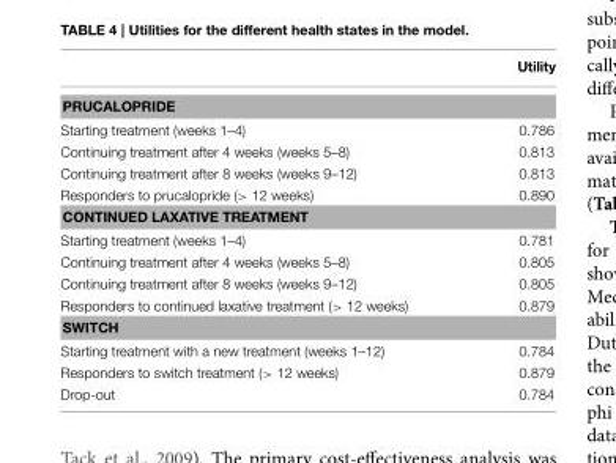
<table><thead><tr><td></td><td>Utility</td></tr></thead><tbody><tr><td colspan="2">PRUCALOPRIDE</td></tr><tr><td>Starting treatment (weeks 1–4)</td><td>0.786</td></tr><tr><td>Continuing treatment after 4 weeks (weeks 5–8)</td><td>0.813</td></tr><tr><td>Continuing treatment after 8 weeks (weeks 9–12)</td><td>0.813</td></tr><tr><td>Responders to prucalopride (&gt; 12 weeks)</td><td>0.890</td></tr><tr><td colspan="2">CONTINUED LAXATIVE TREATMENT</td></tr><tr><td>Starting treatment (weeks 1–4)</td><td>0.781</td></tr><tr><td>Continuing treatment after 4 weeks (weeks 5–8)</td><td>0.805</td></tr><tr><td>Continuing treatment after 8 weeks (weeks 9–12)</td><td>0.805</td></tr><tr><td>Responders to continued laxative treatment (&gt; 12 weeks)</td><td>0.879</td></tr><tr><td colspan="2">SWITCH</td></tr><tr><td>Starting treatment with a new treatment (weeks 1–12)</td><td>0.784</td></tr><tr><td>Responders to switch treatment (&gt; 12 weeks)</td><td>0.879</td></tr><tr><td>Drop-out</td><td>0.784</td></tr></tbody></table>